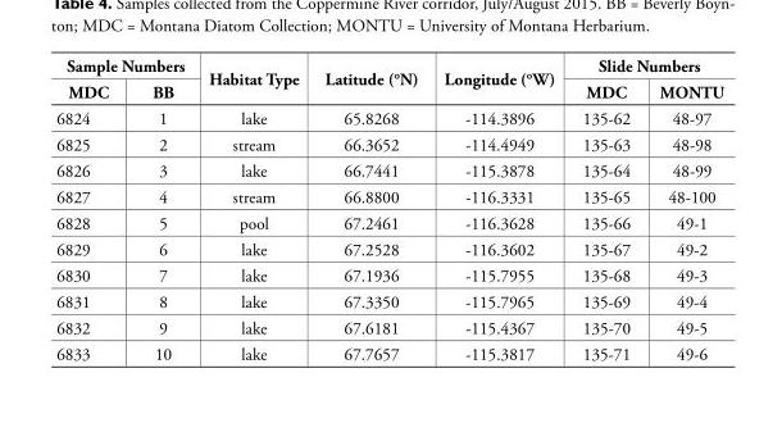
<table><thead><tr><td colspan="2">Sample Numbers</td><td rowspan="2">Habitat Type</td><td rowspan="2">Latitude (°N)</td><td rowspan="2">Longitude (°W)</td><td colspan="2">Slide Numbers</td></tr><tr><td>MDC</td><td>BB</td><td>MDC</td><td>MONTU</td></tr></thead><tbody><tr><td>6824</td><td>1</td><td>lake</td><td colspan="2">65.8268 -114.3896</td><td>135-62</td><td>48-97</td></tr><tr><td>6825</td><td>2</td><td>stream</td><td colspan="2">66.3652 -114.4949</td><td>135-63</td><td>48-98</td></tr><tr><td>6826</td><td>3</td><td>lake</td><td colspan="2">66.7441 -115.3878</td><td>135-64</td><td>48-99</td></tr><tr><td>6827</td><td>4</td><td>stream</td><td colspan="2">66.8800 -116.3331</td><td>135-65</td><td>48-100</td></tr><tr><td>6828</td><td>5</td><td>pool</td><td colspan="2">67.2461 -116.3628</td><td>135-66</td><td>49-1</td></tr><tr><td>6829</td><td>6</td><td>lake</td><td colspan="2">67.2528 -116.3602</td><td>135-67</td><td>49-2</td></tr><tr><td>6830</td><td>7</td><td>lake</td><td colspan="2">67.1936 -115.7955</td><td>135-68</td><td>49-3</td></tr><tr><td>6831</td><td>8</td><td>lake</td><td colspan="2">67.3350 -115.7965</td><td>135-69</td><td>49-4</td></tr><tr><td>6832</td><td>9</td><td>lake</td><td colspan="2">67.6181 -115.4367</td><td>135-70</td><td>49-5</td></tr><tr><td>6833</td><td>10</td><td>lake</td><td colspan="2">67.7657 -115.3817</td><td>135-71</td><td>49-6</td></tr></tbody></table>